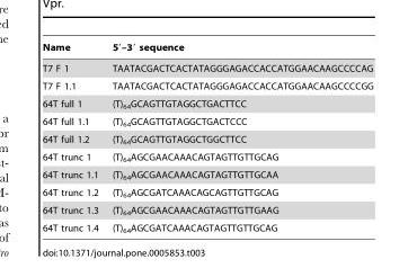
<table><thead><tr><td>Name</td><td>5′–3′ sequence</td></tr></thead><tbody><tr><td>T7 F 1</td><td>TAATACGACTCACTATAGGGAGACCACCATGGAACAAGCCCCAG</td></tr><tr><td>T7 F 1.1</td><td>TAATACGACTCACTATAGGGAGACCACCATGGAACAAGCCCCGG</td></tr><tr><td>64T full 1</td><td>(T)<sub>64</sub>GCAGTTGTAGGCTGACTTCC</td></tr><tr><td>64T full 1.1</td><td>(T)<sub>64</sub>GCAGTTGTAGGCTGACTCCC</td></tr><tr><td>64T full 1.2</td><td>(T)<sub>64</sub>GCAGTTGTAGGCTGGCTTCC</td></tr><tr><td>64T trunc 1</td><td>(T)<sub>64</sub>AGCGAACAAACAGTAGTTGTTGCAG</td></tr><tr><td>64T trunc 1.1</td><td>(T)<sub>64</sub>AGCGAACAAACAGTAGTTGTTGCAA</td></tr><tr><td>64T trunc 1.2</td><td>(T)<sub>64</sub>AGCGATCAAACAGCAGTTGTTGCAG</td></tr><tr><td>64T trunc 1.3</td><td>(T)<sub>64</sub>AGCGAACAAACAGTAGTTGTTGAAG</td></tr><tr><td>64T trunc 1.4</td><td>(T)<sub>64</sub>AGCGATCAAACAGTAGTTGTTGCAG</td></tr></tbody></table>